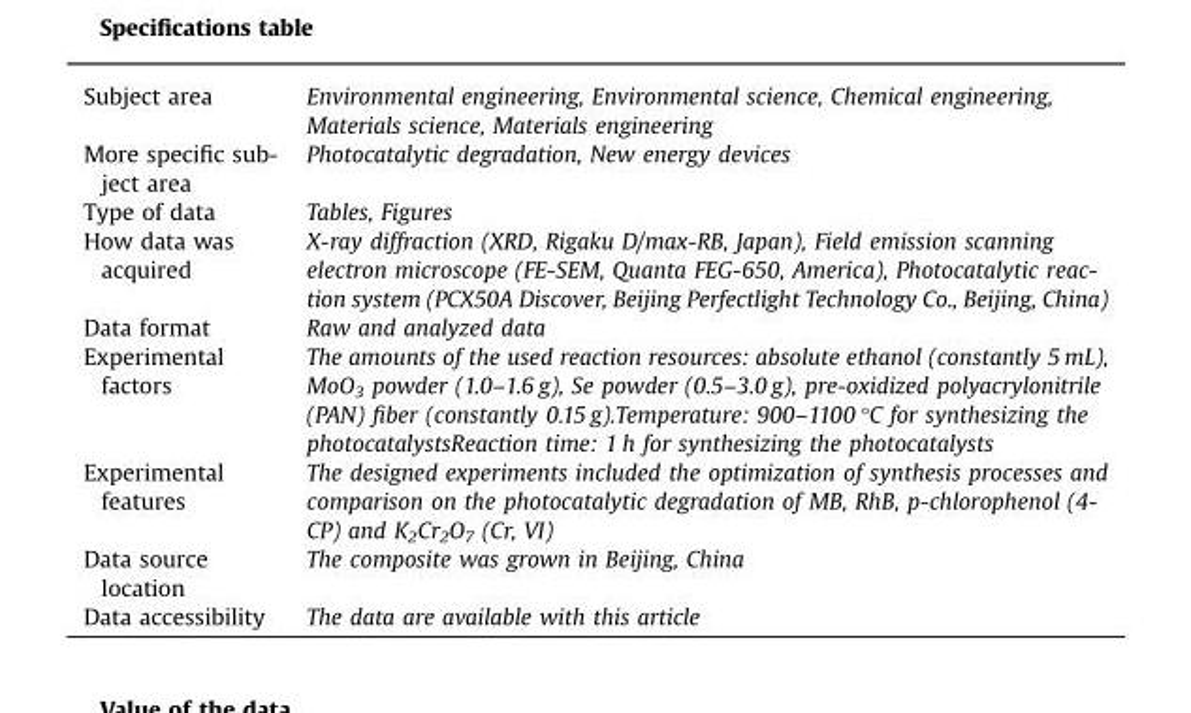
<table><tbody><tr><td>Subject area</td><td>Environmental engineering, Environmental science, Chemical engineering, Materials science, Materials engineering</td></tr><tr><td>More specific sub- ject area</td><td>Photocatalytic degradation, New energy devices</td></tr><tr><td>Type of data</td><td>Tables, Figures</td></tr><tr><td>How data was acquired</td><td>X-ray diffraction (XRD, Rigaku D/max-RB, Japan), Field emission scanning electron microscope (FE-SEM, Quanta FEG-650, America), Photocatalytic reac- tion system (PCX50A Discover, Beijing Perfectlight Technology Co., Beijing, China)</td></tr><tr><td>Data format</td><td>Raw and analyzed data</td></tr><tr><td>Experimental factors</td><td>The amounts of the used reaction resources: absolute ethanol (constantly 5 mL), MoO<sub>3</sub> powder (1.0–1.6 g), Se powder (0.5–3.0 g), pre-oxidized polyacrylonitrile (PAN) fiber (constantly 0.15 g).Temperature: 900–1100 °C for synthesizing the photocatalystsReaction time: 1 h for synthesizing the photocatalysts</td></tr><tr><td>Experimental features</td><td>The designed experiments included the optimization of synthesis processes and comparison on the photocatalytic degradation of MB, RhB, p-chlorophenol (4- CP) and K<sub>2</sub>Cr<sub>2</sub>O<sub>7</sub> (Cr, VI)</td></tr><tr><td>Data source location</td><td>The composite was grown in Beijing, China</td></tr><tr><td>Data accessibility</td><td>The data are available with this article</td></tr></tbody></table>